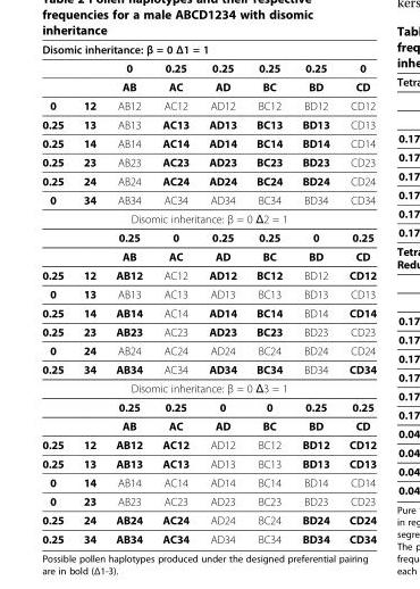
<table><thead><tr><td colspan="8">Disomic inheritance: β = 0 Δ1 = 1</td></tr><tr><td></td><td></td><td>0</td><td>0.25</td><td>0.25</td><td>0.25</td><td>0.25</td><td>0</td></tr></thead><tbody><tr><td></td><td></td><td>AB</td><td>AC</td><td>AD</td><td>BC</td><td>BD</td><td>CD</td></tr><tr><td>0</td><td>12</td><td>AB12</td><td>AC12</td><td>AD12</td><td>BC12</td><td>BD12</td><td>CD12</td></tr><tr><td>0.25</td><td>13</td><td>AB13</td><td>AC13</td><td>AD13</td><td>BC13</td><td>BD13</td><td>CD13</td></tr><tr><td>0.25</td><td>14</td><td>AB14</td><td>AC14</td><td>AD14</td><td>BC14</td><td>BD14</td><td>CD14</td></tr><tr><td>0.25</td><td>23</td><td>AB23</td><td>AC23</td><td>AD23</td><td>BC23</td><td>BD23</td><td>CD23</td></tr><tr><td>0.25</td><td>24</td><td>AB24</td><td>AC24</td><td>AD24</td><td>BC24</td><td>BD24</td><td>CD24</td></tr><tr><td>0</td><td>34</td><td>AB34</td><td>AC34</td><td>AD34</td><td>BC34</td><td>BD34</td><td>CD34</td></tr><tr><td colspan="8">Disomic inheritance: β = 0 Δ2 = 1</td></tr><tr><td></td><td></td><td>0.25</td><td>0</td><td>0.25</td><td>0.25</td><td>0</td><td>0.25</td></tr><tr><td></td><td></td><td>AB</td><td>AC</td><td>AD</td><td>BC</td><td>BD</td><td>CD</td></tr><tr><td>0.25</td><td>12</td><td>AB12</td><td>AC12</td><td>AD12</td><td>BC12</td><td>BD12</td><td>CD12</td></tr><tr><td>0</td><td>13</td><td>AB13</td><td>AC13</td><td>AD13</td><td>BC13</td><td>BD13</td><td>CD13</td></tr><tr><td>0.25</td><td>14</td><td>AB14</td><td>AC14</td><td>AD14</td><td>BC14</td><td>BD14</td><td>CD14</td></tr><tr><td>0.25</td><td>23</td><td>AB23</td><td>AC23</td><td>AD23</td><td>BC23</td><td>BD23</td><td>CD23</td></tr><tr><td>0</td><td>24</td><td>AB24</td><td>AC24</td><td>AD24</td><td>BC24</td><td>BD24</td><td>CD24</td></tr><tr><td>0.25</td><td>34</td><td>AB34</td><td>AC34</td><td>AD34</td><td>BC34</td><td>BD34</td><td>CD34</td></tr><tr><td colspan="8">Disomic inheritance: β = 0 Δ3 = 1</td></tr><tr><td></td><td></td><td>0.25</td><td>0.25</td><td>0</td><td>0</td><td>0.25</td><td>0.25</td></tr><tr><td></td><td></td><td>AB</td><td>AC</td><td>AD</td><td>BC</td><td>BD</td><td>CD</td></tr><tr><td>0.25</td><td>12</td><td>AB12</td><td>AC12</td><td>AD12</td><td>BC12</td><td>BD12</td><td>CD12</td></tr><tr><td>0.25</td><td>13</td><td>AB13</td><td>AC13</td><td>AD13</td><td>BC13</td><td>BD13</td><td>CD13</td></tr><tr><td>0</td><td>14</td><td>AB14</td><td>AC14</td><td>AD14</td><td>BC14</td><td>BD14</td><td>CD14</td></tr><tr><td>0</td><td>23</td><td>AB23</td><td>AC23</td><td>AD23</td><td>BC23</td><td>BD23</td><td>CD23</td></tr><tr><td>0.25</td><td>24</td><td>AB24</td><td>AC24</td><td>AD24</td><td>BC24</td><td>BD24</td><td>CD24</td></tr><tr><td>0.25</td><td>34</td><td>AB34</td><td>AC34</td><td>AD34</td><td>BC34</td><td>BD34</td><td>CD34</td></tr></tbody></table>